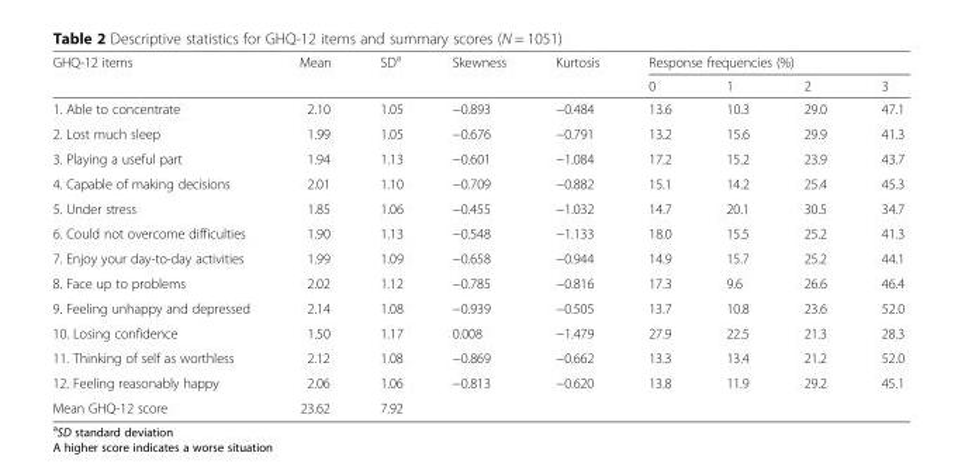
<table><thead><tr><td rowspan="2">GHQ-12 items</td><td rowspan="2">Mean</td><td rowspan="2">SD<sup>a</sup></td><td rowspan="2">Skewness</td><td rowspan="2">Kurtosis</td><td colspan="4">Response frequencies (%)</td></tr><tr><td>0</td><td>1</td><td>2</td><td>3</td></tr></thead><tbody><tr><td>1. Able to concentrate</td><td>2.10</td><td>1.05</td><td>−0.893</td><td>−0.484</td><td>13.6</td><td>10.3</td><td>29.0</td><td>47.1</td></tr><tr><td>2. Lost much sleep</td><td>1.99</td><td>1.05</td><td>−0.676</td><td>−0.791</td><td>13.2</td><td>15.6</td><td>29.9</td><td>41.3</td></tr><tr><td>3. Playing a useful part</td><td>1.94</td><td>1.13</td><td>−0.601</td><td>−1.084</td><td>17.2</td><td>15.2</td><td>23.9</td><td>43.7</td></tr><tr><td>4. Capable of making decisions</td><td>2.01</td><td>1.10</td><td>−0.709</td><td>−0.882</td><td>15.1</td><td>14.2</td><td>25.4</td><td>45.3</td></tr><tr><td>5. Under stress</td><td>1.85</td><td>1.06</td><td>−0.455</td><td>−1.032</td><td>14.7</td><td>20.1</td><td>30.5</td><td>34.7</td></tr><tr><td>6. Could not overcome difficulties</td><td>1.90</td><td>1.13</td><td>−0.548</td><td>−1.133</td><td>18.0</td><td>15.5</td><td>25.2</td><td>41.3</td></tr><tr><td>7. Enjoy your day-to-day activities</td><td>1.99</td><td>1.09</td><td>−0.658</td><td>−0.944</td><td>14.9</td><td>15.7</td><td>25.2</td><td>44.1</td></tr><tr><td>8. Face up to problems</td><td>2.02</td><td>1.12</td><td>−0.785</td><td>−0.816</td><td>17.3</td><td>9.6</td><td>26.6</td><td>46.4</td></tr><tr><td>9. Feeling unhappy and depressed</td><td>2.14</td><td>1.08</td><td>−0.939</td><td>−0.505</td><td>13.7</td><td>10.8</td><td>23.6</td><td>52.0</td></tr><tr><td>10. Losing confidence</td><td>1.50</td><td>1.17</td><td>0.008</td><td>−1.479</td><td>27.9</td><td>22.5</td><td>21.3</td><td>28.3</td></tr><tr><td>11. Thinking of self as worthless</td><td>2.12</td><td>1.08</td><td>−0.869</td><td>−0.662</td><td>13.3</td><td>13.4</td><td>21.2</td><td>52.0</td></tr><tr><td>12. Feeling reasonably happy</td><td>2.06</td><td>1.06</td><td>−0.813</td><td>−0.620</td><td>13.8</td><td>11.9</td><td>29.2</td><td>45.1</td></tr><tr><td>Mean GHQ-12 score</td><td>23.62</td><td>7.92</td><td></td><td></td><td></td><td></td><td></td><td></td></tr></tbody></table>